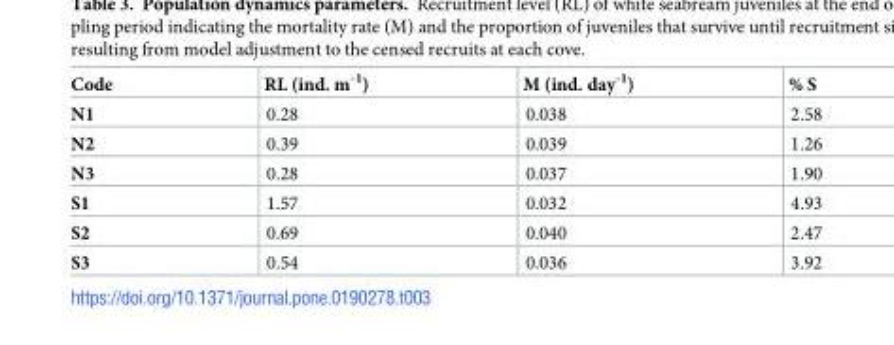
<table><thead><tr><td>Code</td><td>RL (ind. m<sup>-1</sup>)</td><td>M (ind. day<sup>-1</sup>)</td><td>% S</td></tr></thead><tbody><tr><td>N1</td><td>0.28</td><td>0.038</td><td>2.58</td></tr><tr><td>N2</td><td>0.39</td><td>0.039</td><td>1.26</td></tr><tr><td>N3</td><td>0.28</td><td>0.037</td><td>1.90</td></tr><tr><td>S1</td><td>1.57</td><td>0.032</td><td>4.93</td></tr><tr><td>S2</td><td>0.69</td><td>0.040</td><td>2.47</td></tr><tr><td>S3</td><td>0.54</td><td>0.036</td><td>3.92</td></tr></tbody></table>